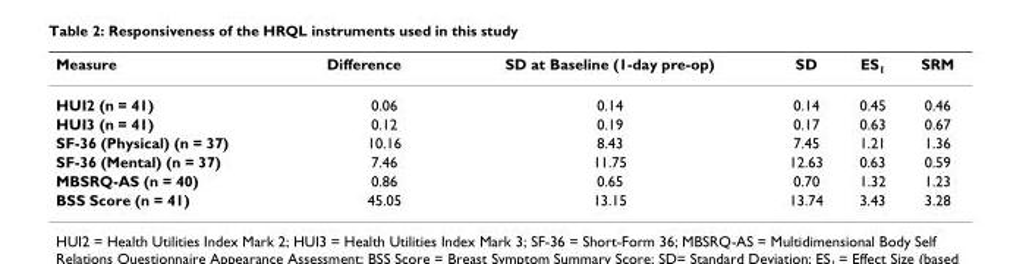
<table><thead><tr><td>Measure</td><td>Difference</td><td>SD at Baseline (1-day pre-op)</td><td>SD</td><td>ES<sub>1</sub></td><td>SRM</td></tr></thead><tbody><tr><td>HUI2 (n = 41)</td><td>0.06</td><td>0.14</td><td>0.14</td><td>0.45</td><td>0.46</td></tr><tr><td>HUI3 (n = 41)</td><td>0.12</td><td>0.19</td><td>0.17</td><td>0.63</td><td>0.67</td></tr><tr><td>SF-36 (Physical) (n = 37)</td><td>10.16</td><td>8.43</td><td>7.45</td><td>1.21</td><td>1.36</td></tr><tr><td>SF-36 (Mental) (n = 37)</td><td>7.46</td><td>11.75</td><td>12.63</td><td>0.63</td><td>0.59</td></tr><tr><td>MBSRQ-AS (n = 40)</td><td>0.86</td><td>0.65</td><td>0.70</td><td>1.32</td><td>1.23</td></tr><tr><td>BSS Score (n = 41)</td><td>45.05</td><td>13.15</td><td>13.74</td><td>3.43</td><td>3.28</td></tr></tbody></table>